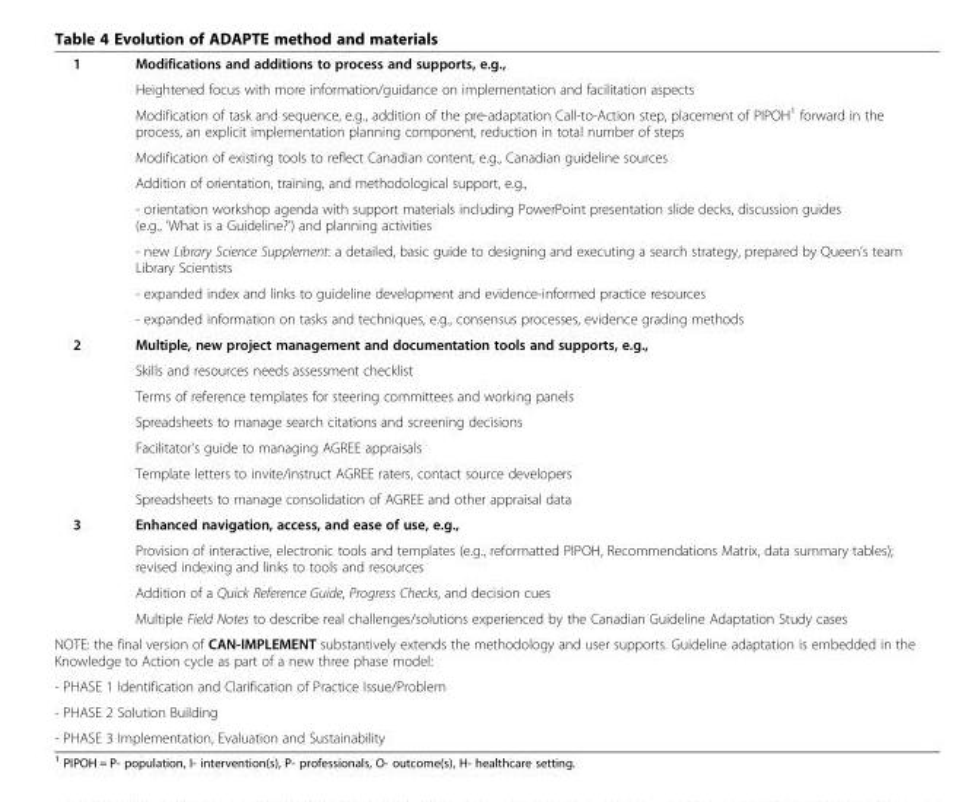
<table><tbody><tr><td rowspan="9">1</td><td>Modifications and additions to process and supports, e.g.,</td></tr><tr><td>Heightened focus with more information/guidance on implementation and facilitation aspects</td></tr><tr><td>Modification of task and sequence, e.g., addition of the pre-adaptation Call-to-Action step, placement of PIPOH<sup>1</sup> forward in the process, an explicit implementation planning component, reduction in total number of steps</td></tr><tr><td>Modification of existing tools to reflect Canadian content, e.g., Canadian guideline sources</td></tr><tr><td>Addition of orientation, training, and methodological support, e.g.,</td></tr><tr><td>- orientation workshop agenda with support materials including PowerPoint presentation slide decks, discussion guides (e.g., ‘What is a Guideline?’) and planning activities</td></tr><tr><td>- new Library Science Supplement: a detailed, basic guide to designing and executing a search strategy, prepared by Queen’s team Library Scientists</td></tr><tr><td>- expanded index and links to guideline development and evidence-informed practice resources</td></tr><tr><td>- expanded information on tasks and techniques, e.g., consensus processes, evidence grading methods</td></tr><tr><td rowspan="7">2</td><td>Multiple, new project management and documentation tools and supports, e.g.,</td></tr><tr><td>Skills and resources needs assessment checklist</td></tr><tr><td>Terms of reference templates for steering committees and working panels</td></tr><tr><td>Spreadsheets to manage search citations and screening decisions</td></tr><tr><td>Facilitator’s guide to managing AGREE appraisals</td></tr><tr><td>Template letters to invite/instruct AGREE raters, contact source developers</td></tr><tr><td>Spreadsheets to manage consolidation of AGREE and other appraisal data</td></tr><tr><td rowspan="4">3</td><td>Enhanced navigation, access, and ease of use, e.g.,</td></tr><tr><td>Provision of interactive, electronic tools and templates (e.g., reformatted PIPOH, Recommendations Matrix, data summary tables); revised indexing and links to tools and resources</td></tr><tr><td>Addition of a Quick Reference Guide, Progress Checks, and decision cues</td></tr><tr><td>Multiple Field Notes to describe real challenges/solutions experienced by the Canadian Guideline Adaptation Study cases</td></tr><tr><td colspan="2">NOTE: the final version of CAN-IMPLEMENT substantively extends the methodology and user supports. Guideline adaptation is embedded in the Knowledge to Action cycle as part of a new three phase model:</td></tr><tr><td colspan="2">- PHASE 1 Identification and Clarification of Practice Issue/Problem</td></tr><tr><td colspan="2">- PHASE 2 Solution Building</td></tr><tr><td colspan="2">- PHASE 3 Implementation, Evaluation and Sustainability</td></tr></tbody></table>